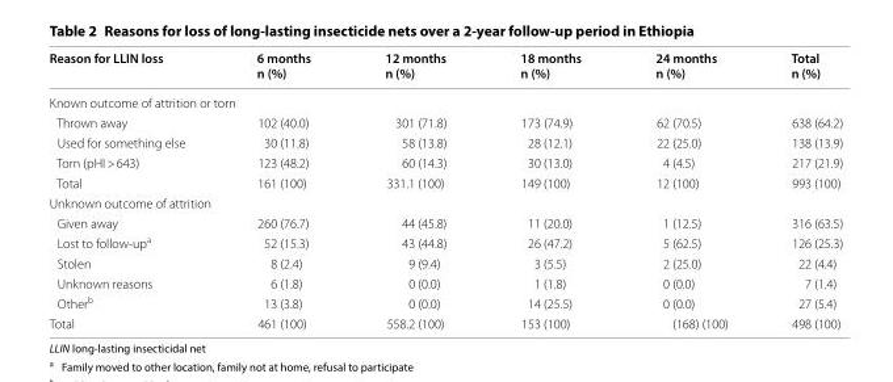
<table><thead><tr><td>Reason for LLIN loss</td><td>6 months n (%)</td><td>12 months n (%)</td><td>18 months n (%)</td><td>24 months n (%)</td><td>Total n (%)</td></tr></thead><tbody><tr><td colspan="6">Known outcome of attrition or torn</td></tr><tr><td>Thrown away</td><td>102 (40.0)</td><td>301 (71.8)</td><td>173 (74.9)</td><td>62 (70.5)</td><td>638 (64.2)</td></tr><tr><td>Used for something else</td><td>30 (11.8)</td><td>58 (13.8)</td><td>28 (12.1)</td><td>22 (25.0)</td><td>138 (13.9)</td></tr><tr><td>Torn (pHI &gt; 643)</td><td>123 (48.2)</td><td>60 (14.3)</td><td>30 (13.0)</td><td>4 (4.5)</td><td>217 (21.9)</td></tr><tr><td>Total</td><td>161 (100)</td><td>331.1 (100)</td><td>149 (100)</td><td>12 (100)</td><td>993 (100)</td></tr><tr><td colspan="6">Unknown outcome of attrition</td></tr><tr><td>Given away</td><td>260 (76.7)</td><td>44 (45.8)</td><td>11 (20.0)</td><td>1 (12.5)</td><td>316 (63.5)</td></tr><tr><td>Lost to follow-up<sup>a</sup></td><td>52 (15.3)</td><td>43 (44.8)</td><td>26 (47.2)</td><td>5 (62.5)</td><td>126 (25.3)</td></tr><tr><td>Stolen</td><td>8 (2.4)</td><td>9 (9.4)</td><td>3 (5.5)</td><td>2 (25.0)</td><td>22 (4.4)</td></tr><tr><td>Unknown reasons</td><td>6 (1.8)</td><td>0 (0.0)</td><td>1 (1.8)</td><td>0 (0.0)</td><td>7 (1.4)</td></tr><tr><td>Other<sup>b</sup></td><td>13 (3.8)</td><td>0 (0.0)</td><td>14 (25.5)</td><td>0 (0.0)</td><td>27 (5.4)</td></tr><tr><td>Total</td><td>461 (100)</td><td>558.2 (100)</td><td>153 (100)</td><td>(168) (100)</td><td>498 (100)</td></tr></tbody></table>